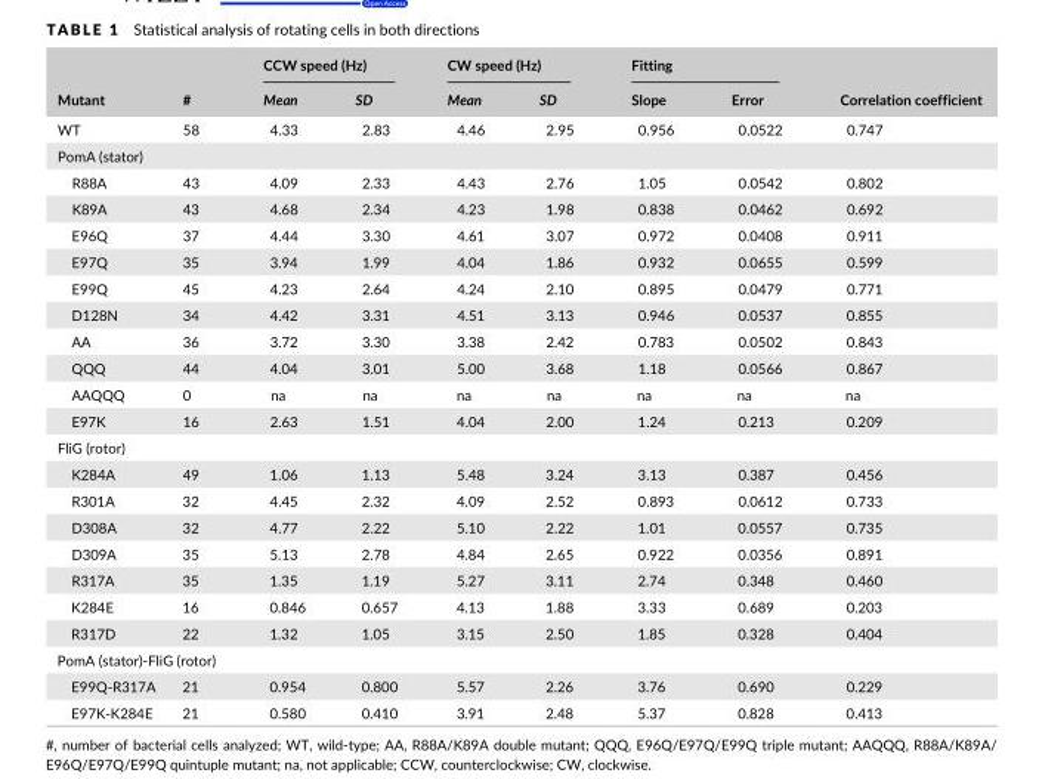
<table><thead><tr><td rowspan="2">Mutant</td><td rowspan="2">#</td><td colspan="2">CCW speed (Hz)</td><td colspan="2">CW speed (Hz)</td><td colspan="2">Fitting</td><td rowspan="2">Correlation coefficient</td></tr><tr><td>Mean</td><td>SD</td><td>Mean</td><td>SD</td><td>Slope</td><td>Error</td></tr></thead><tbody><tr><td>WT</td><td>58</td><td>4.33</td><td>2.83</td><td>4.46</td><td>2.95</td><td>0.956</td><td>0.0522</td><td>0.747</td></tr><tr><td colspan="9">PomA (stator)</td></tr><tr><td>R88A</td><td>43</td><td>4.09</td><td>2.33</td><td>4.43</td><td>2.76</td><td>1.05</td><td>0.0542</td><td>0.802</td></tr><tr><td>K89A</td><td>43</td><td>4.68</td><td>2.34</td><td>4.23</td><td>1.98</td><td>0.838</td><td>0.0462</td><td>0.692</td></tr><tr><td>E96Q</td><td>37</td><td>4.44</td><td>3.30</td><td>4.61</td><td>3.07</td><td>0.972</td><td>0.0408</td><td>0.911</td></tr><tr><td>E97Q</td><td>35</td><td>3.94</td><td>1.99</td><td>4.04</td><td>1.86</td><td>0.932</td><td>0.0655</td><td>0.599</td></tr><tr><td>E99Q</td><td>45</td><td>4.23</td><td>2.64</td><td>4.24</td><td>2.10</td><td>0.895</td><td>0.0479</td><td>0.771</td></tr><tr><td>D128N</td><td>34</td><td>4.42</td><td>3.31</td><td>4.51</td><td>3.13</td><td>0.946</td><td>0.0537</td><td>0.855</td></tr><tr><td>AA</td><td>36</td><td>3.72</td><td>3.30</td><td>3.38</td><td>2.42</td><td>0.783</td><td>0.0502</td><td>0.843</td></tr><tr><td>QQQ</td><td>44</td><td>4.04</td><td>3.01</td><td>5.00</td><td>3.68</td><td>1.18</td><td>0.0566</td><td>0.867</td></tr><tr><td>AAQQQ</td><td>0</td><td>na</td><td>na</td><td>na</td><td>na</td><td>na</td><td>na</td><td>na</td></tr><tr><td>E97K</td><td>16</td><td>2.63</td><td>1.51</td><td>4.04</td><td>2.00</td><td>1.24</td><td>0.213</td><td>0.209</td></tr><tr><td colspan="9">FliG (rotor)</td></tr><tr><td>K284A</td><td>49</td><td>1.06</td><td>1.13</td><td>5.48</td><td>3.24</td><td>3.13</td><td>0.387</td><td>0.456</td></tr><tr><td>R301A</td><td>32</td><td>4.45</td><td>2.32</td><td>4.09</td><td>2.52</td><td>0.893</td><td>0.0612</td><td>0.733</td></tr><tr><td>D308A</td><td>32</td><td>4.77</td><td>2.22</td><td>5.10</td><td>2.22</td><td>1.01</td><td>0.0557</td><td>0.735</td></tr><tr><td>D309A</td><td>35</td><td>5.13</td><td>2.78</td><td>4.84</td><td>2.65</td><td>0.922</td><td>0.0356</td><td>0.891</td></tr><tr><td>R317A</td><td>35</td><td>1.35</td><td>1.19</td><td>5.27</td><td>3.11</td><td>2.74</td><td>0.348</td><td>0.460</td></tr><tr><td>K284E</td><td>16</td><td>0.846</td><td>0.657</td><td>4.13</td><td>1.88</td><td>3.33</td><td>0.689</td><td>0.203</td></tr><tr><td>R317D</td><td>22</td><td>1.32</td><td>1.05</td><td>3.15</td><td>2.50</td><td>1.85</td><td>0.328</td><td>0.404</td></tr><tr><td colspan="9">PomA (stator)- FliG (rotor)</td></tr><tr><td>E99Q- R317A</td><td>21</td><td>0.954</td><td>0.800</td><td>5.57</td><td>2.26</td><td>3.76</td><td>0.690</td><td>0.229</td></tr><tr><td>E97K- K284E</td><td>21</td><td>0.580</td><td>0.410</td><td>3.91</td><td>2.48</td><td>5.37</td><td>0.828</td><td>0.413</td></tr></tbody></table>